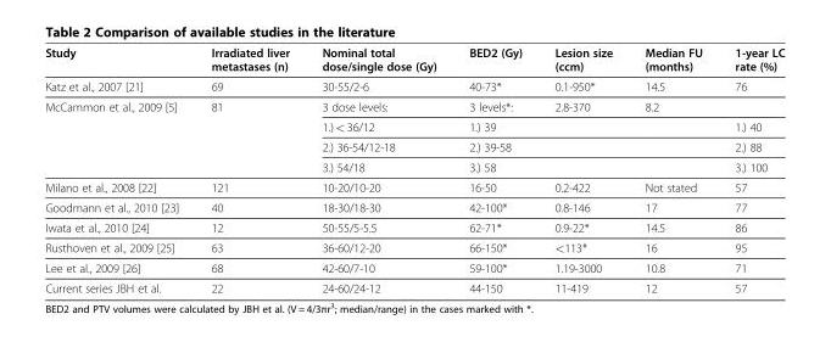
<table><thead><tr><td>Study</td><td>Irradiated liver metastases (n)</td><td>Nominal total dose/single dose (Gy)</td><td>BED2 (Gy)</td><td>Lesion size (ccm)</td><td>Median FU (months)</td><td>1-year LC rate (%)</td></tr></thead><tbody><tr><td>Katz et al., 2007 [21]</td><td>69</td><td>30-55/2-6</td><td>40-73*</td><td>0.1-950*</td><td>14.5</td><td>76</td></tr><tr><td rowspan="4">McCammon et al., 2009 [5]</td><td rowspan="4">81</td><td>3 dose levels:</td><td>3 levels*:</td><td>2.8-370</td><td>8.2</td><td></td></tr><tr><td>1.) &lt; 36/12</td><td>1.) 39</td><td></td><td></td><td>1.) 40</td></tr><tr><td>2.) 36-54/12-18</td><td>2.) 39-58</td><td></td><td></td><td>2.) 88</td></tr><tr><td>3.) 54/18</td><td>3.) 58</td><td></td><td></td><td>3.) 100</td></tr><tr><td>Milano et al., 2008 [22]</td><td>121</td><td>10-20/10-20</td><td>16-50</td><td>0.2-422</td><td>Not stated</td><td>57</td></tr><tr><td>Goodmann et al., 2010 [23]</td><td>40</td><td>18-30/18-30</td><td>42-100*</td><td>0.8-146</td><td>17</td><td>77</td></tr><tr><td>Iwata et al., 2010 [24]</td><td>12</td><td>50-55/5-5.5</td><td>62-71*</td><td>0.9-22*</td><td>14.5</td><td>86</td></tr><tr><td>Rusthoven et al., 2009 [25]</td><td>63</td><td>36-60/12-20</td><td>66-150*</td><td>&lt;113*</td><td>16</td><td>95</td></tr><tr><td>Lee et al., 2009 [26]</td><td>68</td><td>42-60/7-10</td><td>59-100*</td><td>1.19-3000</td><td>10.8</td><td>71</td></tr><tr><td>Current series JBH et al.</td><td>22</td><td>24-60/24-12</td><td>44-150</td><td>11-419</td><td>12</td><td>57</td></tr></tbody></table>